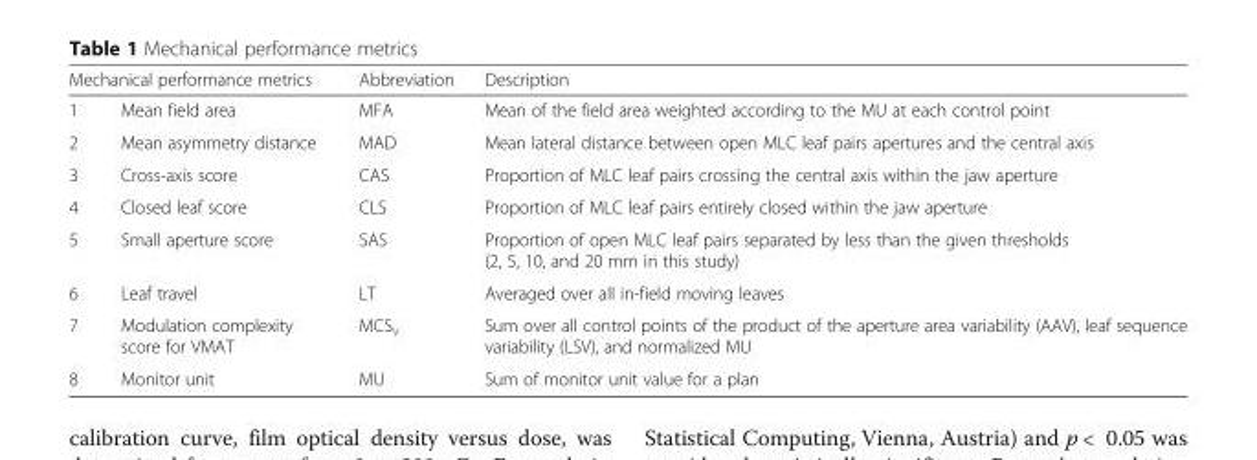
<table><thead><tr><td colspan="2">Mechanical performance metrics</td><td rowspan="2">Abbreviation MFA</td><td rowspan="2">Description Mean of the field area weighted according to the MU at each control point</td></tr><tr><td>1</td><td>Mean field area</td></tr></thead><tbody><tr><td>2</td><td>Mean asymmetry distance</td><td>MAD</td><td>Mean lateral distance between open MLC leaf pairs apertures and the central axis</td></tr><tr><td>3</td><td>Cross-axis score</td><td>CAS</td><td>Proportion of MLC leaf pairs crossing the central axis within the jaw aperture</td></tr><tr><td>4</td><td>Closed leaf score</td><td>CLS</td><td>Proportion of MLC leaf pairs entirely closed within the jaw aperture</td></tr><tr><td>5</td><td>Small aperture score</td><td>SAS</td><td>Proportion of open MLC leaf pairs separated by less than the given thresholds (2, 5, 10, and 20 mm in this study)</td></tr><tr><td>6</td><td>Leaf travel</td><td>LT</td><td>Averaged over all in-field moving leaves</td></tr><tr><td>7</td><td>Modulation complexity score for VMAT</td><td>MCS<sub>v</sub></td><td>Sum over all control points of the product of the aperture area variability (AAV), leaf sequence variability (LSV), and normalized MU</td></tr><tr><td>8</td><td>Monitor unit</td><td>MU</td><td>Sum of monitor unit value for a plan</td></tr></tbody></table>